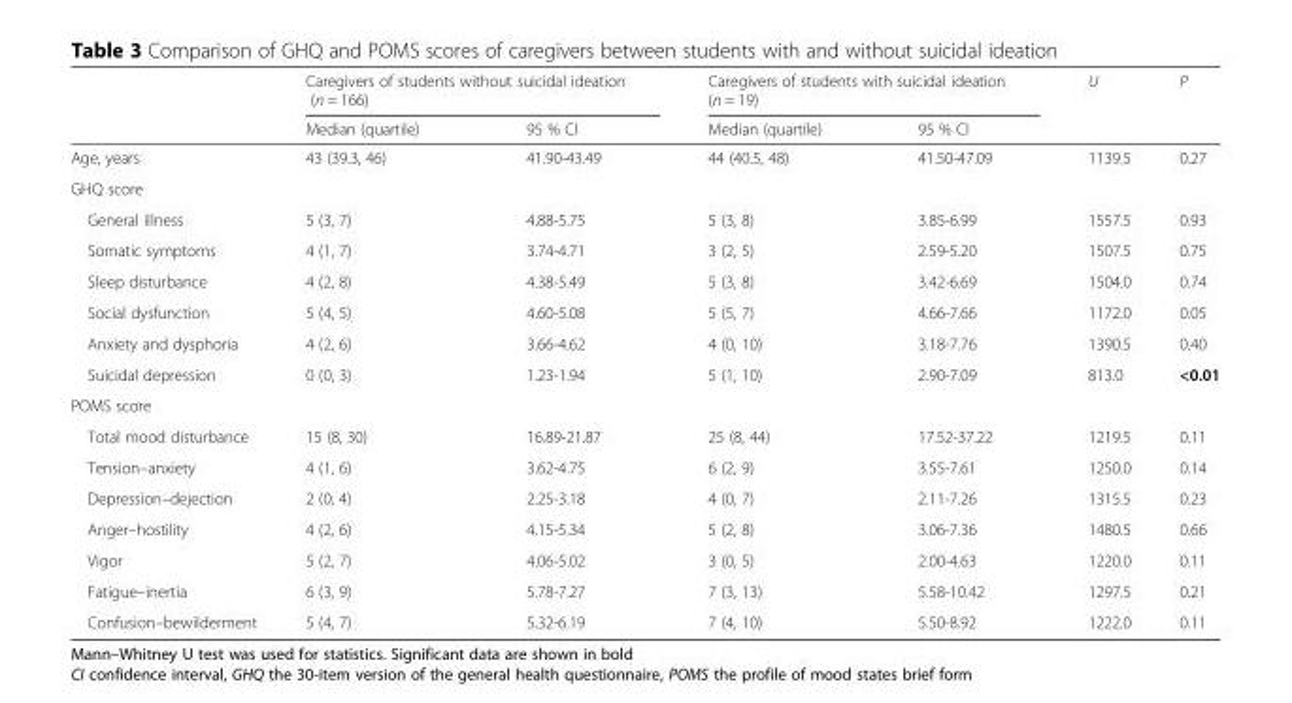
<table><thead><tr><td rowspan="2"></td><td colspan="2">Caregivers of students without suicidal ideation (n = 166)</td><td colspan="2">Caregivers of students with suicidal ideation (n = 19)</td><td rowspan="2">U</td><td rowspan="2">P</td></tr><tr><td>Median (quartile)</td><td>95 % CI</td><td>Median (quartile)</td><td>95 % CI</td></tr></thead><tbody><tr><td>Age, years</td><td>43 (39.3, 46)</td><td>41.90-43.49</td><td>44 (40.5, 48)</td><td>41.50-47.09</td><td>1139.5</td><td>0.27</td></tr><tr><td colspan="7">GHQ score</td></tr><tr><td>General illness</td><td>5 (3, 7)</td><td>4.88-5.75</td><td>5 (3, 8)</td><td>3.85-6.99</td><td>1557.5</td><td>0.93</td></tr><tr><td>Somatic symptoms</td><td>4 (1, 7)</td><td>3.74-4.71</td><td>3 (2, 5)</td><td>2.59-5.20</td><td>1507.5</td><td>0.75</td></tr><tr><td>Sleep disturbance</td><td>4 (2, 8)</td><td>4.38-5.49</td><td>5 (3, 8)</td><td>3.42-6.69</td><td>1504.0</td><td>0.74</td></tr><tr><td>Social dysfunction</td><td>5 (4, 5)</td><td>4.60-5.08</td><td>5 (5, 7)</td><td>4.66-7.66</td><td>1172.0</td><td>0.05</td></tr><tr><td>Anxiety and dysphoria</td><td>4 (2, 6)</td><td>3.66-4.62</td><td>4 (0, 10)</td><td>3.18-7.76</td><td>1390.5</td><td>0.40</td></tr><tr><td>Suicidal depression</td><td>0 (0, 3)</td><td>1.23-1.94</td><td>5 (1, 10)</td><td>2.90-7.09</td><td>813.0</td><td>&lt;0.01</td></tr><tr><td colspan="7">POMS score</td></tr><tr><td>Total mood disturbance</td><td>15 (8, 30)</td><td>16.89-21.87</td><td>25 (8, 44)</td><td>17.52-37.22</td><td>1219.5</td><td>0.11</td></tr><tr><td>Tension–anxiety</td><td>4 (1, 6)</td><td>3.62-4.75</td><td>6 (2, 9)</td><td>3.55-7.61</td><td>1250.0</td><td>0.14</td></tr><tr><td>Depression–dejection</td><td>2 (0, 4)</td><td>2.25-3.18</td><td>4 (0, 7)</td><td>2.11-7.26</td><td>1315.5</td><td>0.23</td></tr><tr><td>Anger–hostility</td><td>4 (2, 6)</td><td>4.15-5.34</td><td>5 (2, 8)</td><td>3.06-7.36</td><td>1480.5</td><td>0.66</td></tr><tr><td>Vigor</td><td>5 (2, 7)</td><td>4.06-5.02</td><td>3 (0, 5)</td><td>2.00-4.63</td><td>1220.0</td><td>0.11</td></tr><tr><td>Fatigue–inertia</td><td>6 (3, 9)</td><td>5.78-7.27</td><td>7 (3, 13)</td><td>5.58-10.42</td><td>1297.5</td><td>0.21</td></tr><tr><td>Confusion–bewilderment</td><td>5 (4, 7)</td><td>5.32-6.19</td><td>7 (4, 10)</td><td>5.50-8.92</td><td>1222.0</td><td>0.11</td></tr></tbody></table>